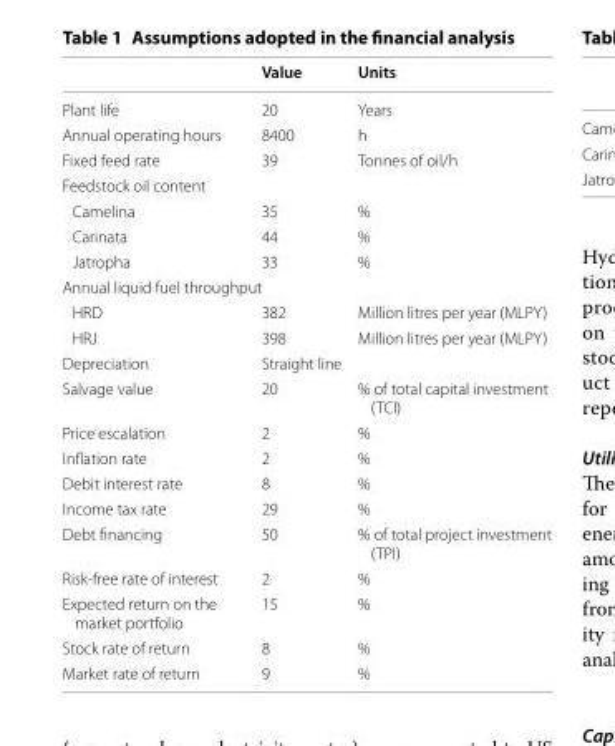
<table><thead><tr><td></td><td>Value</td><td>Units</td></tr></thead><tbody><tr><td>Plant life</td><td>20</td><td>Years</td></tr><tr><td>Annual operating hours</td><td>8400</td><td>h</td></tr><tr><td>Fixed feed rate</td><td>39</td><td>Tonnes of oil/h</td></tr><tr><td colspan="3">Feedstock oil content</td></tr><tr><td>Camelina</td><td>35</td><td>%</td></tr><tr><td>Carinata</td><td>44</td><td>%</td></tr><tr><td>Jatropha</td><td>33</td><td>%</td></tr><tr><td colspan="3">Annual liquid fuel throughput</td></tr><tr><td>HRD</td><td>382</td><td>Million litres per year (MLPY)</td></tr><tr><td>HRJ</td><td>398</td><td>Million litres per year (MLPY)</td></tr><tr><td>Depreciation</td><td>Straight line</td><td></td></tr><tr><td>Salvage value</td><td>20</td><td>% of total capital investment (TCI)</td></tr><tr><td>Price escalation</td><td>2</td><td>%</td></tr><tr><td>Inflation rate</td><td>2</td><td>%</td></tr><tr><td>Debit interest rate</td><td>8</td><td>%</td></tr><tr><td>Income tax rate</td><td>29</td><td>%</td></tr><tr><td>Debt financing</td><td>50</td><td>% of total project investment (TPI)</td></tr><tr><td>Risk-free rate of interest</td><td>2</td><td>%</td></tr><tr><td>Expected return on the market portfolio</td><td>15</td><td>%</td></tr><tr><td>Stock rate of return</td><td>8</td><td>%</td></tr><tr><td>Market rate of return</td><td>9</td><td>%</td></tr></tbody></table>